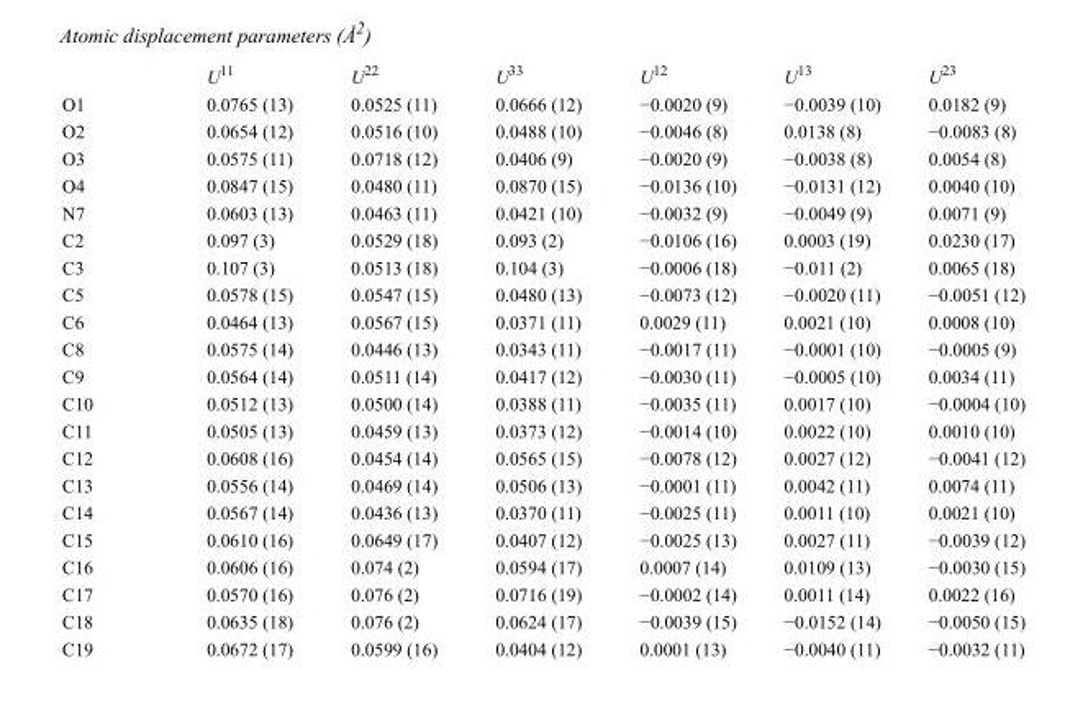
<table><thead><tr><td></td><td>U<sup>11</sup></td><td>U<sup>22</sup></td><td>U<sup>33</sup></td><td>U<sup>12</sup></td><td>U<sup>13</sup></td><td>U<sup>23</sup></td></tr></thead><tbody><tr><td>O1</td><td>0.0765 (13)</td><td>0.0525 (11)</td><td>0.0666 (12)</td><td>−0.0020 (9)</td><td>−0.0039 (10)</td><td>0.0182 (9)</td></tr><tr><td>O2</td><td>0.0654 (12)</td><td>0.0516 (10)</td><td>0.0488 (10)</td><td>−0.0046 (8)</td><td>0.0138 (8)</td><td>−0.0083 (8)</td></tr><tr><td>O3</td><td>0.0575 (11)</td><td>0.0718 (12)</td><td>0.0406 (9)</td><td>−0.0020 (9)</td><td>−0.0038 (8)</td><td>0.0054 (8)</td></tr><tr><td>O4</td><td>0.0847 (15)</td><td>0.0480 (11)</td><td>0.0870 (15)</td><td>−0.0136 (10)</td><td>−0.0131 (12)</td><td>0.0040 (10)</td></tr><tr><td>N7</td><td>0.0603 (13)</td><td>0.0463 (11)</td><td>0.0421 (10)</td><td>−0.0032 (9)</td><td>−0.0049 (9)</td><td>0.0071 (9)</td></tr><tr><td>C2</td><td>0.097 (3)</td><td>0.0529 (18)</td><td>0.093 (2)</td><td>−0.0106 (16)</td><td>0.0003 (19)</td><td>0.0230 (17)</td></tr><tr><td>C3</td><td>0.107 (3)</td><td>0.0513 (18)</td><td>0.104 (3)</td><td>−0.0006 (18)</td><td>−0.011 (2)</td><td>0.0065 (18)</td></tr><tr><td>C5</td><td>0.0578 (15)</td><td>0.0547 (15)</td><td>0.0480 (13)</td><td>−0.0073 (12)</td><td>−0.0020 (11)</td><td>−0.0051 (12)</td></tr><tr><td>C6</td><td>0.0464 (13)</td><td>0.0567 (15)</td><td>0.0371 (11)</td><td>0.0029 (11)</td><td>0.0021 (10)</td><td>0.0008 (10)</td></tr><tr><td>C8</td><td>0.0575 (14)</td><td>0.0446 (13)</td><td>0.0343 (11)</td><td>−0.0017 (11)</td><td>−0.0001 (10)</td><td>−0.0005 (9)</td></tr><tr><td>C9</td><td>0.0564 (14)</td><td>0.0511 (14)</td><td>0.0417 (12)</td><td>−0.0030 (11)</td><td>−0.0005 (10)</td><td>0.0034 (11)</td></tr><tr><td>C10</td><td>0.0512 (13)</td><td>0.0500 (14)</td><td>0.0388 (11)</td><td>−0.0035 (11)</td><td>0.0017 (10)</td><td>−0.0004 (10)</td></tr><tr><td>C11</td><td>0.0505 (13)</td><td>0.0459 (13)</td><td>0.0373 (12)</td><td>−0.0014 (10)</td><td>0.0022 (10)</td><td>0.0010 (10)</td></tr><tr><td>C12</td><td>0.0608 (16)</td><td>0.0454 (14)</td><td>0.0565 (15)</td><td>−0.0078 (12)</td><td>0.0027 (12)</td><td>−0.0041 (12)</td></tr><tr><td>C13</td><td>0.0556 (14)</td><td>0.0469 (14)</td><td>0.0506 (13)</td><td>−0.0001 (11)</td><td>0.0042 (11)</td><td>0.0074 (11)</td></tr><tr><td>C14</td><td>0.0567 (14)</td><td>0.0436 (13)</td><td>0.0370 (11)</td><td>−0.0025 (11)</td><td>0.0011 (10)</td><td>0.0021 (10)</td></tr><tr><td>C15</td><td>0.0610 (16)</td><td>0.0649 (17)</td><td>0.0407 (12)</td><td>−0.0025 (13)</td><td>0.0027 (11)</td><td>−0.0039 (12)</td></tr><tr><td>C16</td><td>0.0606 (16)</td><td>0.074 (2)</td><td>0.0594 (17)</td><td>0.0007 (14)</td><td>0.0109 (13)</td><td>−0.0030 (15)</td></tr><tr><td>C17</td><td>0.0570 (16)</td><td>0.076 (2)</td><td>0.0716 (19)</td><td>−0.0002 (14)</td><td>0.0011 (14)</td><td>0.0022 (16)</td></tr><tr><td>C18</td><td>0.0635 (18)</td><td>0.076 (2)</td><td>0.0624 (17)</td><td>−0.0039 (15)</td><td>−0.0152 (14)</td><td>−0.0050 (15)</td></tr><tr><td>C19</td><td>0.0672 (17)</td><td>0.0599 (16)</td><td>0.0404 (12)</td><td>0.0001 (13)</td><td>−0.0040 (11)</td><td>−0.0032 (11)</td></tr></tbody></table>